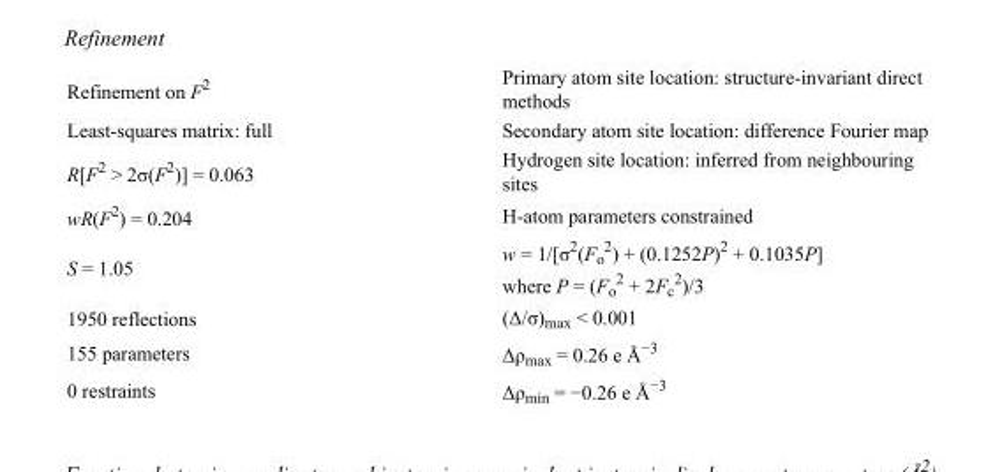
<table><tbody><tr><td>Refinement on F<sup>2</sup></td><td>Primary atom site location: structure-invariant direct methods</td></tr><tr><td>Least-squares matrix: full</td><td>Secondary atom site location: difference Fourier map</td></tr><tr><td>R[F<sup>2</sup> &gt; 2σ(F<sup>2</sup>)] = 0.063</td><td>Hydrogen site location: inferred from neighbouring sites</td></tr><tr><td>wR(F<sup>2</sup>) = 0.204</td><td>H-atom parameters constrained</td></tr><tr><td>S = 1.05</td><td>w = 1/[σ<sup>2</sup>(F<sub>o</sub> <sup>2</sup>) + (0.1252P)<sup>2</sup> + 0.1035P] where P = (F<sub>o</sub> <sup>2</sup> + 2F<sub>c</sub> <sup>2</sup>)/3</td></tr><tr><td>1950 reflections</td><td>(Δ/σ)<sub>max</sub> &lt; 0.001</td></tr><tr><td>155 parameters</td><td>Δρ<sub>max</sub> = 0.26 e Å<sup>−3</sup></td></tr><tr><td>0 restraints</td><td>Δρ<sub>min</sub> = −0.26 e Å<sup>−3</sup></td></tr></tbody></table>